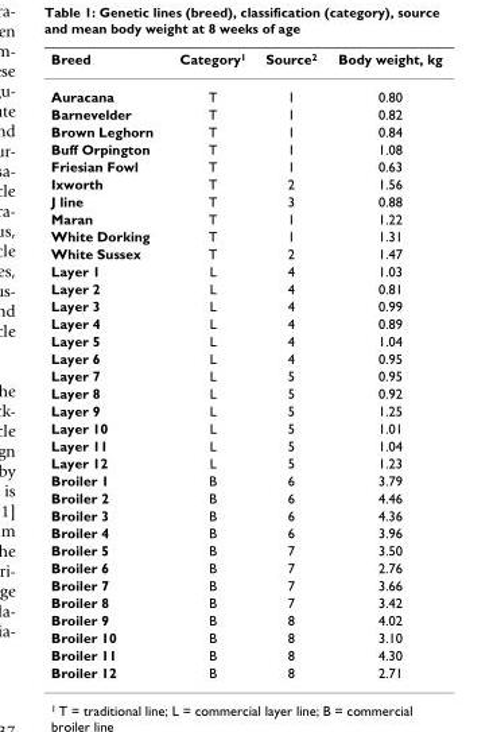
<table><thead><tr><td>Breed</td><td>Category<sup>1</sup></td><td>Source<sup>2</sup></td><td>Body weight, kg</td></tr></thead><tbody><tr><td>Auracana</td><td>T</td><td>1</td><td>0.80</td></tr><tr><td>Barnevelder</td><td>T</td><td>1</td><td>0.82</td></tr><tr><td>Brown Leghorn</td><td>T</td><td>1</td><td>0.84</td></tr><tr><td>Buff Orpington</td><td>T</td><td>1</td><td>1.08</td></tr><tr><td>Friesian Fowl</td><td>T</td><td>1</td><td>0.63</td></tr><tr><td>Ixworth</td><td>T</td><td>2</td><td>1.56</td></tr><tr><td>J line</td><td>T</td><td>3</td><td>0.88</td></tr><tr><td>Maran</td><td>T</td><td>1</td><td>1.22</td></tr><tr><td>White Dorking</td><td>T</td><td>1</td><td>1.31</td></tr><tr><td>White Sussex</td><td>T</td><td>2</td><td>1.47</td></tr><tr><td>Layer 1</td><td>L</td><td>4</td><td>1.03</td></tr><tr><td>Layer 2</td><td>L</td><td>4</td><td>0.81</td></tr><tr><td>Layer 3</td><td>L</td><td>4</td><td>0.99</td></tr><tr><td>Layer 4</td><td>L</td><td>4</td><td>0.89</td></tr><tr><td>Layer 5</td><td>L</td><td>4</td><td>1.04</td></tr><tr><td>Layer 6</td><td>L</td><td>4</td><td>0.95</td></tr><tr><td>Layer 7</td><td>L</td><td>5</td><td>0.95</td></tr><tr><td>Layer 8</td><td>L</td><td>5</td><td>0.92</td></tr><tr><td>Layer 9</td><td>L</td><td>5</td><td>1.25</td></tr><tr><td>Layer 10</td><td>L</td><td>5</td><td>1.01</td></tr><tr><td>Layer 11</td><td>L</td><td>5</td><td>1.04</td></tr><tr><td>Layer 12</td><td>L</td><td>5</td><td>1.23</td></tr><tr><td>Broiler 1</td><td>B</td><td>6</td><td>3.79</td></tr><tr><td>Broiler 2</td><td>B</td><td>6</td><td>4.46</td></tr><tr><td>Broiler 3</td><td>B</td><td>6</td><td>4.36</td></tr><tr><td>Broiler 4</td><td>B</td><td>6</td><td>3.96</td></tr><tr><td>Broiler 5</td><td>B</td><td>7</td><td>3.50</td></tr><tr><td>Broiler 6</td><td>B</td><td>7</td><td>2.76</td></tr><tr><td>Broiler 7</td><td>B</td><td>7</td><td>3.66</td></tr><tr><td>Broiler 8</td><td>B</td><td>7</td><td>3.42</td></tr><tr><td>Broiler 9</td><td>B</td><td>8</td><td>4.02</td></tr><tr><td>Broiler 10</td><td>B</td><td>8</td><td>3.10</td></tr><tr><td>Broiler 11</td><td>B</td><td>8</td><td>4.30</td></tr><tr><td>Broiler 12</td><td>B</td><td>8</td><td>2.71</td></tr></tbody></table>